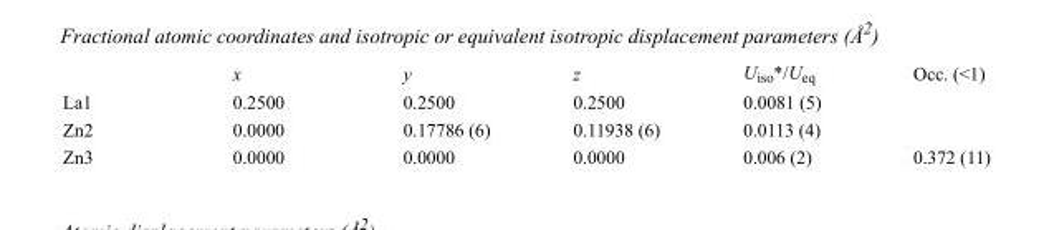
<table><thead><tr><td></td><td>x</td><td>y</td><td>z</td><td>U<sub>iso</sub>*/U<sub>eq</sub></td><td>Occ. (&lt;1)</td></tr></thead><tbody><tr><td>La1</td><td>0.2500</td><td>0.2500</td><td>0.2500</td><td>0.0081 (5)</td><td></td></tr><tr><td>Zn2</td><td>0.0000</td><td>0.17786 (6)</td><td>0.11938 (6)</td><td>0.0113 (4)</td><td></td></tr><tr><td>Zn3</td><td>0.0000</td><td>0.0000</td><td>0.0000</td><td>0.006 (2)</td><td>0.372 (11)</td></tr></tbody></table>